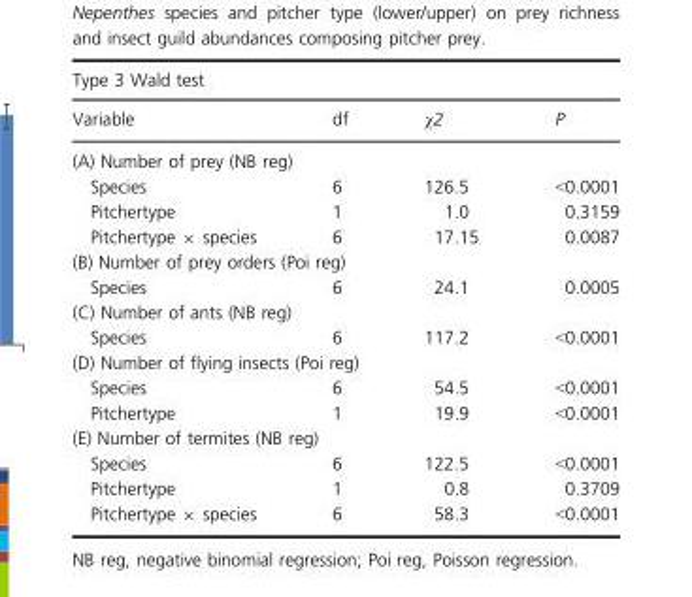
<table><thead><tr><td colspan="4">Type 3 Wald test</td></tr><tr><td>Variable</td><td>df</td><td>χ2</td><td>P</td></tr></thead><tbody><tr><td colspan="4">(A) Number of prey (NB reg)</td></tr><tr><td>Species</td><td>6</td><td>126.5</td><td>&lt;0.0001</td></tr><tr><td>Pitchertype</td><td>1</td><td>1.0</td><td>0.3159</td></tr><tr><td>Pitchertype × species</td><td>6</td><td>17.15</td><td>0.0087</td></tr><tr><td colspan="4">(B) Number of prey orders (Poi reg)</td></tr><tr><td>Species</td><td>6</td><td>24.1</td><td>0.0005</td></tr><tr><td colspan="4">(C) Number of ants (NB reg)</td></tr><tr><td>Species</td><td>6</td><td>117.2</td><td>&lt;0.0001</td></tr><tr><td colspan="4">(D) Number of flying insects (Poi reg)</td></tr><tr><td>Species</td><td>6</td><td>54.5</td><td>&lt;0.0001</td></tr><tr><td>Pitchertype</td><td>1</td><td>19.9</td><td>&lt;0.0001</td></tr><tr><td colspan="4">(E) Number of termites (NB reg)</td></tr><tr><td>Species</td><td>6</td><td>122.5</td><td>&lt;0.0001</td></tr><tr><td>Pitchertype</td><td>1</td><td>0.8</td><td>0.3709</td></tr><tr><td>Pitchertype × species</td><td>6</td><td>58.3</td><td>&lt;0.0001</td></tr></tbody></table>